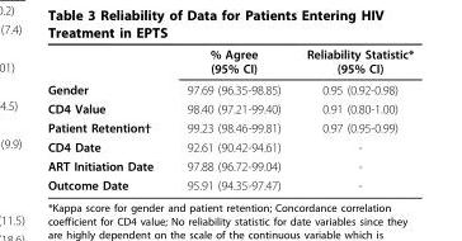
<table><thead><tr><td></td><td>% Agree (95% CI)</td><td>Reliability Statistic* (95% CI)</td></tr></thead><tbody><tr><td>Gender</td><td>97.69 (96.35-98.85)</td><td>0.95 (0.92-0.98)</td></tr><tr><td>CD4 Value</td><td>98.40 (97.21-99.40)</td><td>0.91 (0.80-1.00)</td></tr><tr><td>Patient Retention†</td><td>99.23 (98.46-99.81)</td><td>0.97 (0.95-0.99)</td></tr><tr><td>CD4 Date</td><td>92.61 (90.42-94.61)</td><td>-</td></tr><tr><td>ART Initiation Date</td><td>97.88 (96.72-99.04)</td><td>-</td></tr><tr><td>Outcome Date</td><td>95.91 (94.35-97.47)</td><td>-</td></tr></tbody></table>